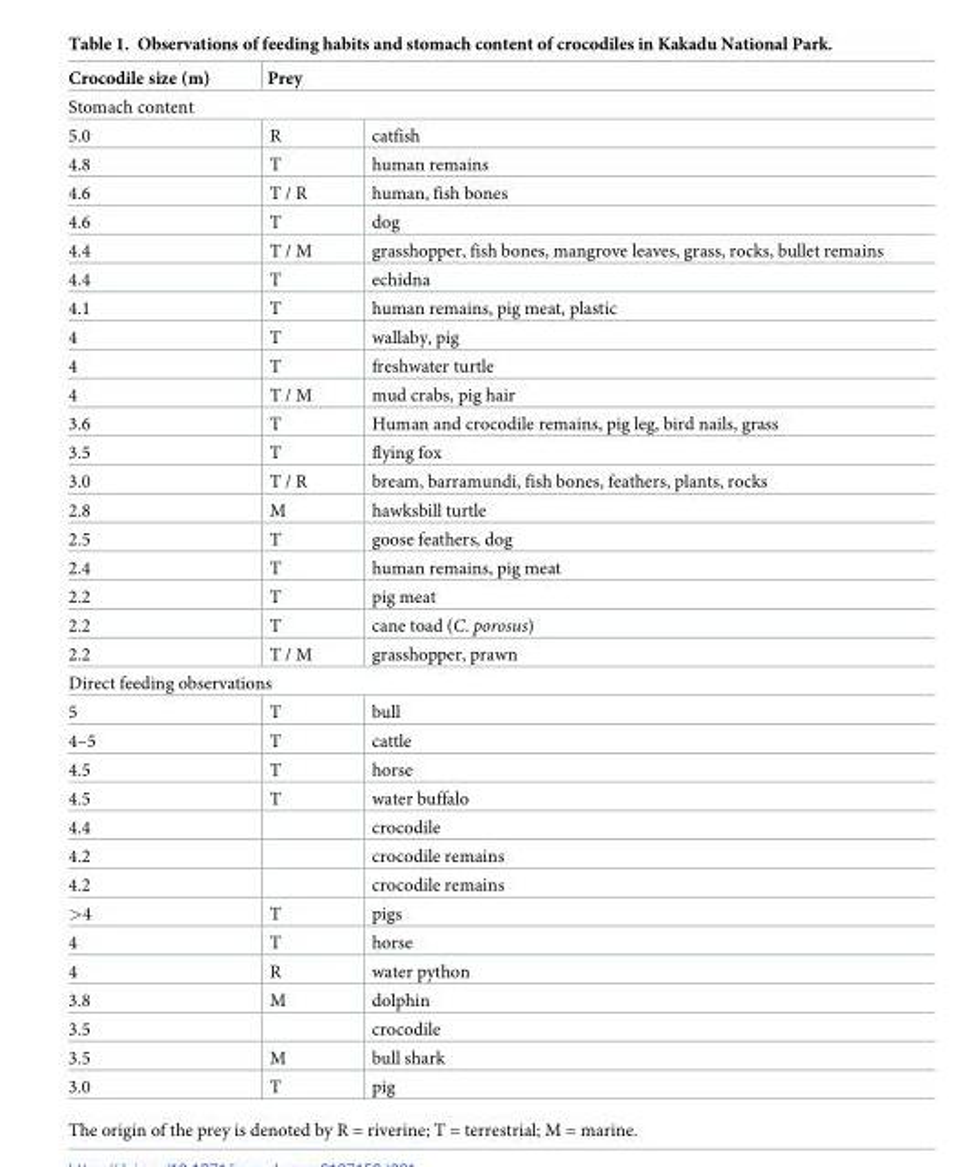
<table><thead><tr><td>Crocodile size (m)</td><td colspan="2">Prey</td></tr><tr><td colspan="3">Stomach content</td></tr><tr><td>5.0</td><td>R</td><td>catfish</td></tr></thead><tbody><tr><td>4.8</td><td>T</td><td>human remains</td></tr><tr><td>4.6</td><td>T / R</td><td>human, fish bones</td></tr><tr><td>4.6</td><td>T</td><td>dog</td></tr><tr><td>4.4</td><td>T / M</td><td>grasshopper, fish bones, mangrove leaves, grass, rocks, bullet remains</td></tr><tr><td>4.4</td><td>T</td><td>echidna</td></tr><tr><td>4.1</td><td>T</td><td>human remains, pig meat, plastic</td></tr><tr><td>4</td><td>T</td><td>wallaby, pig</td></tr><tr><td>4</td><td>T</td><td>freshwater turtle</td></tr><tr><td>4</td><td>T / M</td><td>mud crabs, pig hair</td></tr><tr><td>3.6</td><td>T</td><td>Human and crocodile remains, pig leg, bird nails, grass</td></tr><tr><td>3.5</td><td>T</td><td>flying fox</td></tr><tr><td>3.0</td><td>T / R</td><td>bream, barramundi, fish bones, feathers, plants, rocks</td></tr><tr><td>2.8</td><td>M</td><td>hawksbill turtle</td></tr><tr><td>2.5</td><td>T</td><td>goose feathers, dog</td></tr><tr><td>2.4</td><td>T</td><td>human remains, pig meat</td></tr><tr><td>2.2</td><td>T</td><td>pig meat</td></tr><tr><td>2.2</td><td>T</td><td>cane toad (C. porosus)</td></tr><tr><td>2.2</td><td>T / M</td><td>grasshopper, prawn</td></tr><tr><td colspan="3">Direct feeding observations</td></tr><tr><td>5</td><td>T</td><td>bull</td></tr><tr><td>4–5</td><td>T</td><td>cattle</td></tr><tr><td>4.5</td><td>T</td><td>horse</td></tr><tr><td>4.5</td><td>T</td><td>water buffalo</td></tr><tr><td>4.4</td><td></td><td>crocodile</td></tr><tr><td>4.2</td><td></td><td>crocodile remains</td></tr><tr><td>4.2</td><td></td><td>crocodile remains</td></tr><tr><td>&gt;4</td><td>T</td><td>pigs</td></tr><tr><td>4</td><td>T</td><td>horse</td></tr><tr><td>4</td><td>R</td><td>water python</td></tr><tr><td>3.8</td><td>M</td><td>dolphin</td></tr><tr><td>3.5</td><td></td><td>crocodile</td></tr><tr><td>3.5</td><td>M</td><td>bull shark</td></tr><tr><td>3.0</td><td>T</td><td>pig</td></tr></tbody></table>